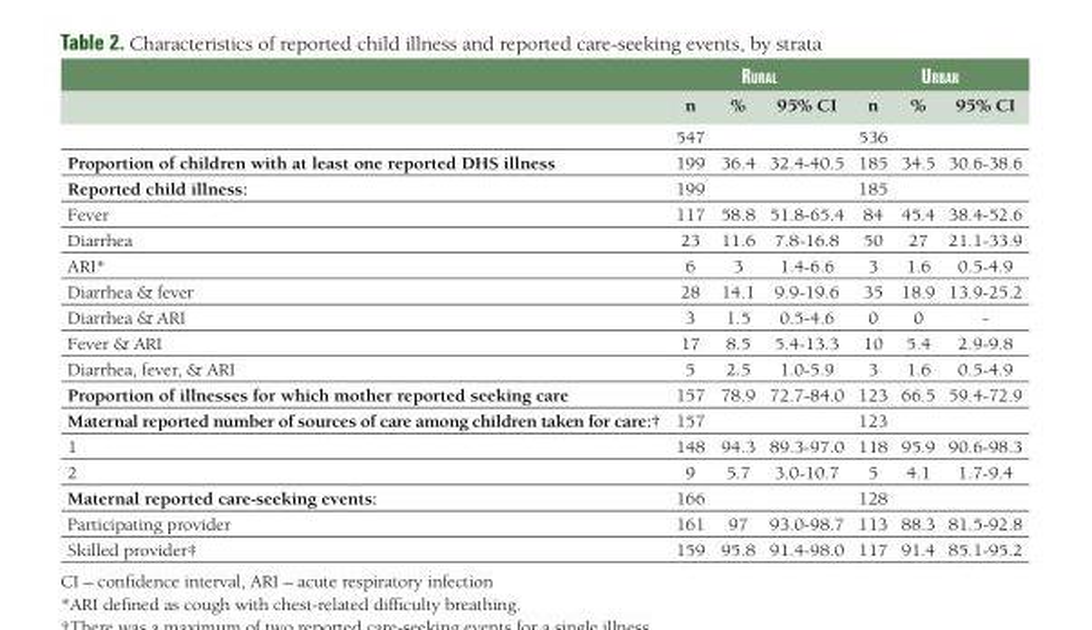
<table><thead><tr><td rowspan="2"></td><td colspan="3">RuRal</td><td colspan="3">uRban</td></tr><tr><td>n</td><td>%</td><td>95% CI</td><td>n</td><td>%</td><td>95% CI</td></tr></thead><tbody><tr><td></td><td>547</td><td></td><td></td><td>536</td><td></td><td></td></tr><tr><td>Proportion of children with at least one reported DHS illness</td><td>199</td><td>36.4</td><td>32.4-40.5</td><td>185</td><td>34.5</td><td>30.6-38.6</td></tr><tr><td>Reported child illness:</td><td>199</td><td></td><td></td><td>185</td><td></td><td></td></tr><tr><td>Fever</td><td>117</td><td>58.8</td><td>51.8-65.4</td><td>84</td><td>45.4</td><td>38.4-52.6</td></tr><tr><td>Diarrhea</td><td>23</td><td>11.6</td><td>7.8-16.8</td><td>50</td><td>27</td><td>21.1-33.9</td></tr><tr><td>ARI*</td><td>6</td><td>3</td><td>1.4-6.6</td><td>3</td><td>1.6</td><td>0.5-4.9</td></tr><tr><td>Diarrhea &amp; fever</td><td>28</td><td>14.1</td><td>9.9-19.6</td><td>35</td><td>18.9</td><td>13.9-25.2</td></tr><tr><td>Diarrhea &amp; ARI</td><td>3</td><td>1.5</td><td>0.5-4.6</td><td>0</td><td>0</td><td>-</td></tr><tr><td>Fever &amp; ARI</td><td>17</td><td>8.5</td><td>5.4-13.3</td><td>10</td><td>5.4</td><td>2.9-9.8</td></tr><tr><td>Diarrhea, fever, &amp; ARI</td><td>5</td><td>2.5</td><td>1.0-5.9</td><td>3</td><td>1.6</td><td>0.5-4.9</td></tr><tr><td>Proportion of illnesses for which mother reported seeking care</td><td>157</td><td>78.9</td><td>72.7-84.0</td><td>123</td><td>66.5</td><td>59.4-72.9</td></tr><tr><td>Maternal reported number of sources of care among children taken for care:†</td><td>157</td><td></td><td></td><td>123</td><td></td><td></td></tr><tr><td>1</td><td>148</td><td>94.3</td><td>89.3-97.0</td><td>118</td><td>95.9</td><td>90.6-98.3</td></tr><tr><td>2</td><td>9</td><td>5.7</td><td>3.0-10.7</td><td>5</td><td>4.1</td><td>1.7-9.4</td></tr><tr><td>Maternal reported care-seeking events:</td><td>166</td><td></td><td></td><td>128</td><td></td><td></td></tr><tr><td>Participating provider</td><td>161</td><td>97</td><td>93.0-98.7</td><td>113</td><td>88.3</td><td>81.5-92.8</td></tr><tr><td>Skilled provider‡</td><td>159</td><td>95.8</td><td>91.4-98.0</td><td>117</td><td>91.4</td><td>85.1-95.2</td></tr></tbody></table>